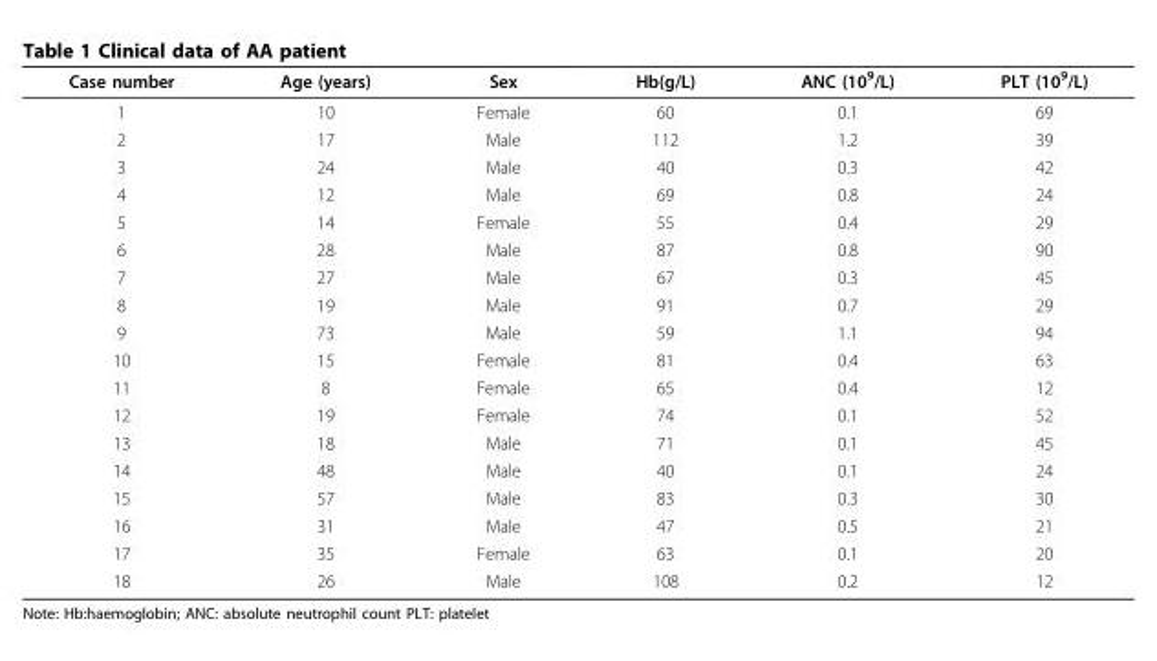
<table><thead><tr><td>Case number</td><td>Age (years)</td><td>Sex</td><td>Hb(g/L)</td><td>ANC (10<sup>9</sup>/L)</td><td>PLT (10<sup>9</sup>/L)</td></tr></thead><tbody><tr><td>1</td><td>10</td><td>Female</td><td>60</td><td>0.1</td><td>69</td></tr><tr><td>2</td><td>17</td><td>Male</td><td>112</td><td>1.2</td><td>39</td></tr><tr><td>3</td><td>24</td><td>Male</td><td>40</td><td>0.3</td><td>42</td></tr><tr><td>4</td><td>12</td><td>Male</td><td>69</td><td>0.8</td><td>24</td></tr><tr><td>5</td><td>14</td><td>Female</td><td>55</td><td>0.4</td><td>29</td></tr><tr><td>6</td><td>28</td><td>Male</td><td>87</td><td>0.8</td><td>90</td></tr><tr><td>7</td><td>27</td><td>Male</td><td>67</td><td>0.3</td><td>45</td></tr><tr><td>8</td><td>19</td><td>Male</td><td>91</td><td>0.7</td><td>29</td></tr><tr><td>9</td><td>73</td><td>Male</td><td>59</td><td>1.1</td><td>94</td></tr><tr><td>10</td><td>15</td><td>Female</td><td>81</td><td>0.4</td><td>63</td></tr><tr><td>11</td><td>8</td><td>Female</td><td>65</td><td>0.4</td><td>12</td></tr><tr><td>12</td><td>19</td><td>Female</td><td>74</td><td>0.1</td><td>52</td></tr><tr><td>13</td><td>18</td><td>Male</td><td>71</td><td>0.1</td><td>45</td></tr><tr><td>14</td><td>48</td><td>Male</td><td>40</td><td>0.1</td><td>24</td></tr><tr><td>15</td><td>57</td><td>Male</td><td>83</td><td>0.3</td><td>30</td></tr><tr><td>16</td><td>31</td><td>Male</td><td>47</td><td>0.5</td><td>21</td></tr><tr><td>17</td><td>35</td><td>Female</td><td>63</td><td>0.1</td><td>20</td></tr><tr><td>18</td><td>26</td><td>Male</td><td>108</td><td>0.2</td><td>12</td></tr></tbody></table>